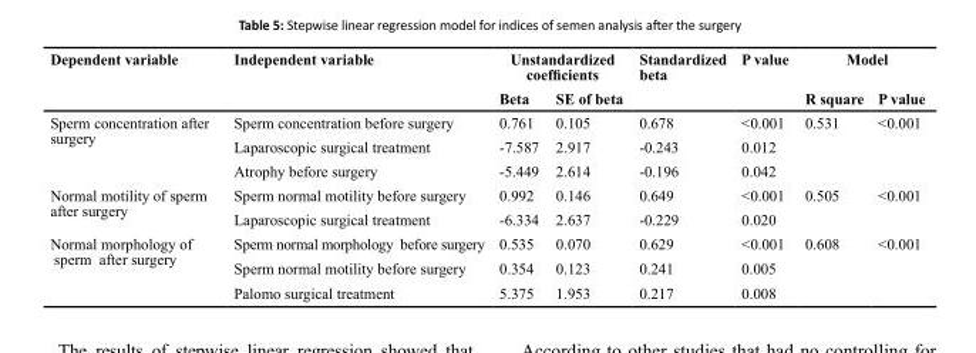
<table><thead><tr><td rowspan="2">Dependent variable</td><td rowspan="2">Independent variable</td><td colspan="2">Unstandardized coefficients</td><td rowspan="2">Standardized beta</td><td rowspan="2">P value</td><td colspan="2">Model</td></tr><tr><td>Beta</td><td>SE of beta</td><td>R square</td><td>P value</td></tr></thead><tbody><tr><td rowspan="3">Sperm concentration after surgery</td><td>Sperm concentration before surgery</td><td>0.761</td><td>0.105</td><td>0.678</td><td>&lt;0.001</td><td rowspan="3">0.531</td><td rowspan="3">&lt;0.001</td></tr><tr><td>Laparoscopic surgical treatment</td><td>-7.587</td><td>2.917</td><td>-0.243</td><td>0.012</td></tr><tr><td>Atrophy before surgery</td><td>-5.449</td><td>2.614</td><td>-0.196</td><td>0.042</td></tr><tr><td rowspan="2">Normal motility of sperm after surgery</td><td>Sperm normal motility before surgery</td><td>0.992</td><td>0.146</td><td>0.649</td><td>&lt;0.001</td><td rowspan="2">0.505</td><td rowspan="2">&lt;0.001</td></tr><tr><td>Laparoscopic surgical treatment</td><td>-6.334</td><td>2.637</td><td>-0.229</td><td>0.020</td></tr><tr><td rowspan="3">Normal morphology of sperm after surgery</td><td>Sperm normal morphology before surgery</td><td>0.535</td><td>0.070</td><td>0.629</td><td>&lt;0.001</td><td rowspan="3">0.608</td><td rowspan="3">&lt;0.001</td></tr><tr><td>Sperm normal motility before surgery</td><td>0.354</td><td>0.123</td><td>0.241</td><td>0.005</td></tr><tr><td>Palomo surgical treatment</td><td>5.375</td><td>1.953</td><td>0.217</td><td>0.008</td></tr></tbody></table>